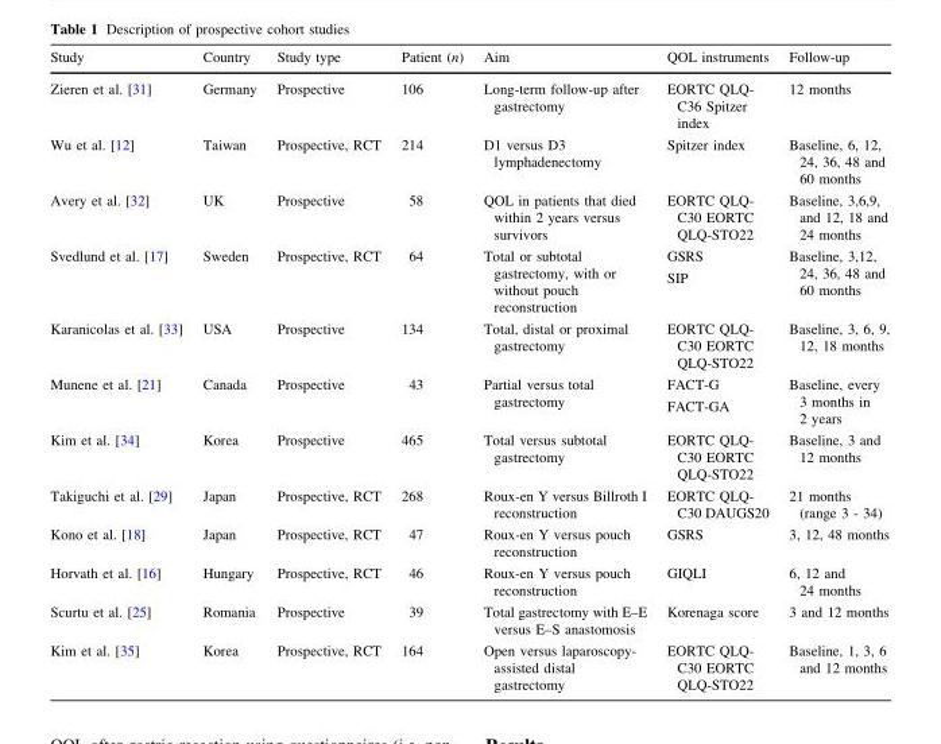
<table><thead><tr><td>Study</td><td>Country</td><td>Study type</td><td>Patient (n)</td><td>Aim</td><td>QOL instruments</td><td>Follow-up</td></tr></thead><tbody><tr><td>Zieren et al. [31]</td><td>Germany</td><td>Prospective</td><td>106</td><td>Long-term follow-up after gastrectomy</td><td>EORTC QLQ- C36 Spitzer index</td><td>12 months</td></tr><tr><td>Wu et al. [12]</td><td>Taiwan</td><td>Prospective, RCT</td><td>214</td><td>D1 versus D3 lymphadenectomy</td><td>Spitzer index</td><td>Baseline, 6, 12, 24, 36, 48 and 60 months</td></tr><tr><td>Avery et al. [32]</td><td>UK</td><td>Prospective</td><td>58</td><td>QOL in patients that died within 2 years versus survivors</td><td>EORTC QLQ- C30 EORTC QLQ-STO22</td><td>Baseline, 3,6,9, and 12, 18 and 24 months</td></tr><tr><td>Svedlund et al. [17]</td><td>Sweden</td><td>Prospective, RCT</td><td>64</td><td>Total or subtotal gastrectomy, with or without pouch reconstruction</td><td>GSRS SIP</td><td>Baseline, 3,12, 24, 36, 48 and 60 months</td></tr><tr><td>Karanicolas et al. [33]</td><td>USA</td><td>Prospective</td><td>134</td><td>Total, distal or proximal gastrectomy</td><td>EORTC QLQ- C30 EORTC QLQ-STO22</td><td>Baseline, 3, 6, 9, 12, 18 months</td></tr><tr><td>Munene et al. [21]</td><td>Canada</td><td>Prospective</td><td>43</td><td>Partial versus total gastrectomy</td><td>FACT-G FACT-GA</td><td>Baseline, every 3 months in 2 years</td></tr><tr><td>Kim et al. [34]</td><td>Korea</td><td>Prospective</td><td>465</td><td>Total versus subtotal gastrectomy</td><td>EORTC QLQ- C30 EORTC QLQ-STO22</td><td>Baseline, 3 and 12 months</td></tr><tr><td>Takiguchi et al. [29]</td><td>Japan</td><td>Prospective, RCT</td><td>268</td><td>Roux-en Y versus Billroth I reconstruction</td><td>EORTC QLQ- C30 DAUGS20</td><td>21 months (range 3 - 34)</td></tr><tr><td>Kono et al. [18]</td><td>Japan</td><td>Prospective, RCT</td><td>47</td><td>Roux-en Y versus pouch reconstruction</td><td>GSRS</td><td>3, 12, 48 months</td></tr><tr><td>Horvath et al. [16]</td><td>Hungary</td><td>Prospective, RCT</td><td>46</td><td>Roux-en Y versus pouch reconstruction</td><td>GIQLI</td><td>6, 12 and 24 months</td></tr><tr><td>Scurtu et al. [25]</td><td>Romania</td><td>Prospective</td><td>39</td><td>Total gastrectomy with E–E versus E–S anastomosis</td><td>Korenaga score</td><td>3 and 12 months</td></tr><tr><td>Kim et al. [35]</td><td>Korea</td><td>Prospective, RCT</td><td>164</td><td>Open versus laparoscopy- assisted distal gastrectomy</td><td>EORTC QLQ- C30 EORTC QLQ-STO22</td><td>Baseline, 1, 3, 6 and 12 months</td></tr></tbody></table>